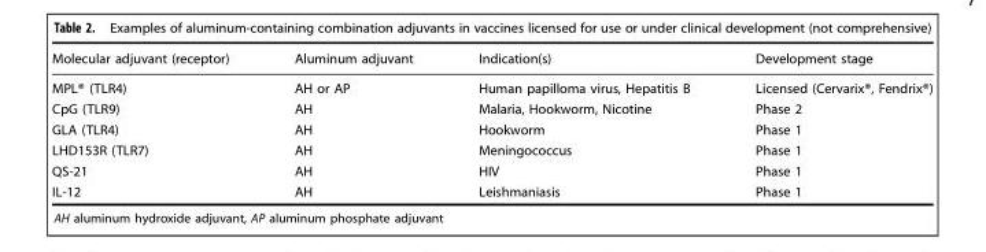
<table><thead><tr><td>Molecular adjuvant (receptor)</td><td>Aluminum adjuvant</td><td>Indication(s)</td><td>Development stage</td></tr></thead><tbody><tr><td>MPL® (TLR4)</td><td>AH or AP</td><td>Human papilloma virus, Hepatitis B</td><td>Licensed (Cervarix®, Fendrix®)</td></tr><tr><td>CpG (TLR9)</td><td>AH</td><td>Malaria, Hookworm, Nicotine</td><td>Phase 2</td></tr><tr><td>GLA (TLR4)</td><td>AH</td><td>Hookworm</td><td>Phase 1</td></tr><tr><td>LHD153R (TLR7)</td><td>AH</td><td>Meningococcus</td><td>Phase 1</td></tr><tr><td>QS-21</td><td>AH</td><td>HIV</td><td>Phase 1</td></tr><tr><td>IL-12</td><td>AH</td><td>Leishmaniasis</td><td>Phase 1</td></tr></tbody></table>